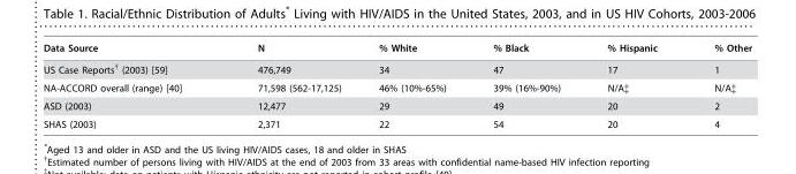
<table><thead><tr><td>Data Source</td><td>N</td><td>% White</td><td>% Black</td><td>% Hispanic</td><td>% Other</td></tr></thead><tbody><tr><td>US Case Reports† (2003) [59]</td><td>476,749</td><td>34</td><td>47</td><td>17</td><td>1</td></tr><tr><td>NA-ACCORD overall (range) [40]</td><td>71,598 (562-17,125)</td><td>46% (10%-65%)</td><td>39% (16%-90%)</td><td>N/A‡</td><td>N/A‡</td></tr><tr><td>ASD (2003)</td><td>12,477</td><td>29</td><td>49</td><td>20</td><td>2</td></tr><tr><td>SHAS (2003)</td><td>2,371</td><td>22</td><td>54</td><td>20</td><td>4</td></tr></tbody></table>